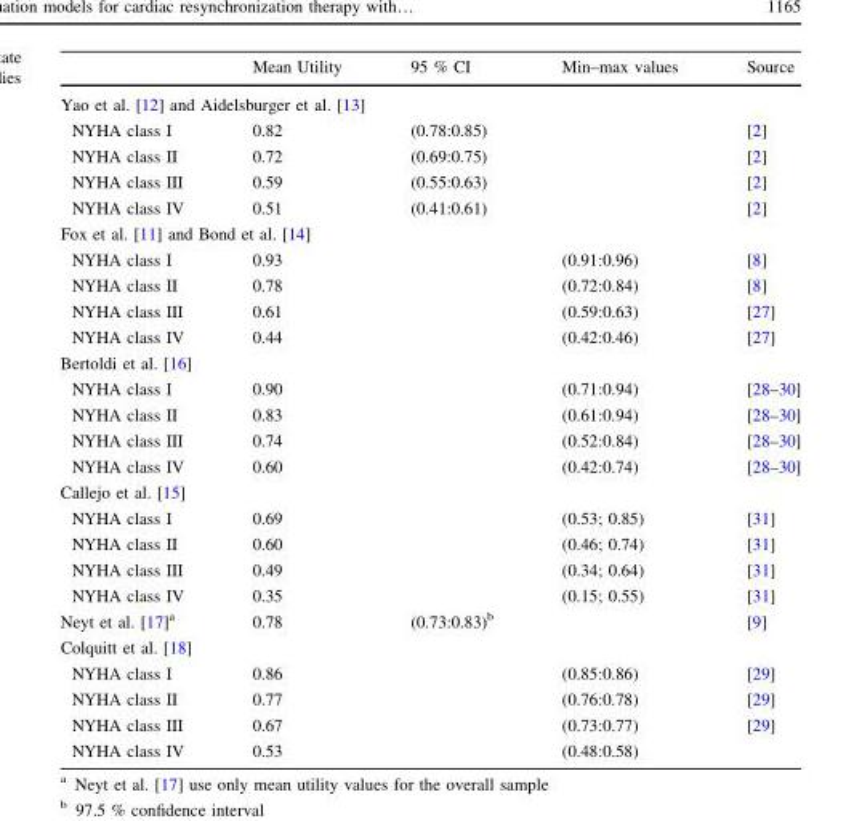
<table><thead><tr><td></td><td>Mean Utility</td><td>95 % CI</td><td>Min–max values</td><td>Source</td></tr></thead><tbody><tr><td colspan="5">Yao et al. [12] and Aidelsburger et al. [13]</td></tr><tr><td>NYHA class I</td><td>0.82</td><td>(0.78:0.85)</td><td></td><td>[2]</td></tr><tr><td>NYHA class II</td><td>0.72</td><td>(0.69:0.75)</td><td></td><td>[2]</td></tr><tr><td>NYHA class III</td><td>0.59</td><td>(0.55:0.63)</td><td></td><td>[2]</td></tr><tr><td>NYHA class IV</td><td>0.51</td><td>(0.41:0.61)</td><td></td><td>[2]</td></tr><tr><td colspan="5">Fox et al. [11] and Bond et al. [14]</td></tr><tr><td>NYHA class I</td><td>0.93</td><td></td><td>(0.91:0.96)</td><td>[8]</td></tr><tr><td>NYHA class II</td><td>0.78</td><td></td><td>(0.72:0.84)</td><td>[8]</td></tr><tr><td>NYHA class III</td><td>0.61</td><td></td><td>(0.59:0.63)</td><td>[27]</td></tr><tr><td>NYHA class IV</td><td>0.44</td><td></td><td>(0.42:0.46)</td><td>[27]</td></tr><tr><td colspan="5">Bertoldi et al. [16]</td></tr><tr><td>NYHA class I</td><td>0.90</td><td></td><td>(0.71:0.94)</td><td>[28–30]</td></tr><tr><td>NYHA class II</td><td>0.83</td><td></td><td>(0.61:0.94)</td><td>[28–30]</td></tr><tr><td>NYHA class III</td><td>0.74</td><td></td><td>(0.52:0.84)</td><td>[28–30]</td></tr><tr><td>NYHA class IV</td><td>0.60</td><td></td><td>(0.42:0.74)</td><td>[28–30]</td></tr><tr><td colspan="5">Callejo et al. [15]</td></tr><tr><td>NYHA class I</td><td>0.69</td><td></td><td>(0.53; 0.85)</td><td>[31]</td></tr><tr><td>NYHA class II</td><td>0.60</td><td></td><td>(0.46; 0.74)</td><td>[31]</td></tr><tr><td>NYHA class III</td><td>0.49</td><td></td><td>(0.34; 0.64)</td><td>[31]</td></tr><tr><td>NYHA class IV</td><td>0.35</td><td></td><td>(0.15; 0.55)</td><td>[31]</td></tr><tr><td>Neyt et al. [17]<sup>a</sup></td><td>0.78</td><td>(0.73:0.83)<sup>b</sup></td><td></td><td>[9]</td></tr><tr><td colspan="5">Colquitt et al. [18]</td></tr><tr><td>NYHA class I</td><td>0.86</td><td></td><td>(0.85:0.86)</td><td>[29]</td></tr><tr><td>NYHA class II</td><td>0.77</td><td></td><td>(0.76:0.78)</td><td>[29]</td></tr><tr><td>NYHA class III</td><td>0.67</td><td></td><td>(0.73:0.77)</td><td>[29]</td></tr><tr><td>NYHA class IV</td><td>0.53</td><td></td><td>(0.48:0.58)</td><td></td></tr></tbody></table>